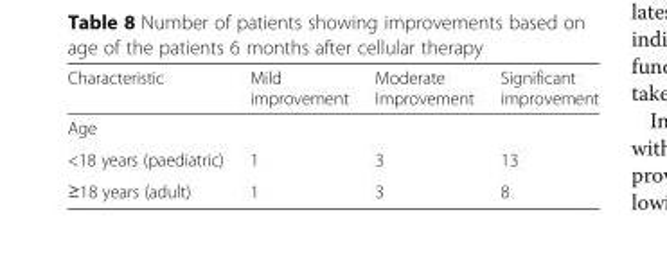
<table><thead><tr><td>Characteristic</td><td>Mild improvement</td><td>Moderate Improvement</td><td>Significant improvement</td></tr></thead><tbody><tr><td colspan="4">Age</td></tr><tr><td>&lt;18 years (paediatric)</td><td>1</td><td>3</td><td>13</td></tr><tr><td>≥18 years (adult)</td><td>1</td><td>3</td><td>8</td></tr></tbody></table>